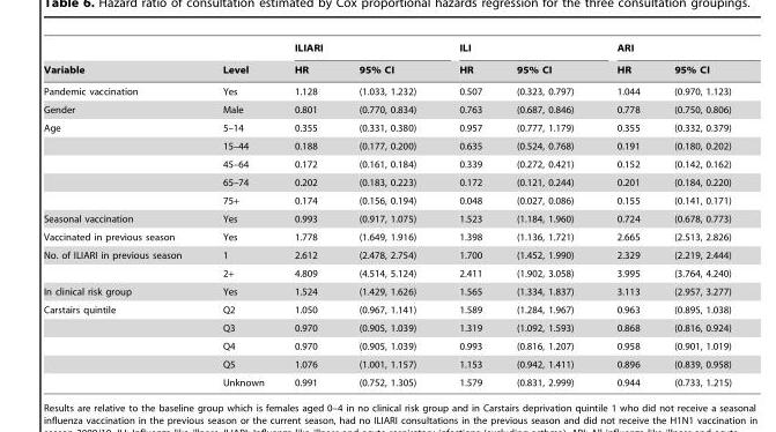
<table><thead><tr><td rowspan="2">Variable</td><td rowspan="2">Level</td><td colspan="2">ILIARI</td><td colspan="2">ILI</td><td colspan="2">ARI</td></tr><tr><td>HR</td><td>95% CI</td><td>HR</td><td>95% CI</td><td>HR</td><td>95% CI</td></tr></thead><tbody><tr><td>Pandemic vaccination</td><td>Yes</td><td>1.128</td><td>(1.033, 1.232)</td><td>0.507</td><td>(0.323, 0.797)</td><td>1.044</td><td>(0.970, 1.123)</td></tr><tr><td>Gender</td><td>Male</td><td>0.801</td><td>(0.770, 0.834)</td><td>0.763</td><td>(0.687, 0.846)</td><td>0.778</td><td>(0.750, 0.806)</td></tr><tr><td rowspan="5">Age</td><td>5–14</td><td>0.355</td><td>(0.331, 0.380)</td><td>0.957</td><td>(0.777, 1.179)</td><td>0.355</td><td>(0.332, 0.379)</td></tr><tr><td>15–44</td><td>0.188</td><td>(0.177, 0.200)</td><td>0.635</td><td>(0.524, 0.768)</td><td>0.191</td><td>(0.180, 0.202)</td></tr><tr><td>45–64</td><td>0.172</td><td>(0.161, 0.184)</td><td>0.339</td><td>(0.272, 0.421)</td><td>0.152</td><td>(0.142, 0.162)</td></tr><tr><td>65–74</td><td>0.202</td><td>(0.183, 0.223)</td><td>0.172</td><td>(0.121, 0.244)</td><td>0.201</td><td>(0.184, 0.220)</td></tr><tr><td>75+</td><td>0.174</td><td>(0.156, 0.194)</td><td>0.048</td><td>(0.027, 0.086)</td><td>0.155</td><td>(0.141, 0.171)</td></tr><tr><td>Seasonal vaccination</td><td>Yes</td><td>0.993</td><td>(0.917, 1.075)</td><td>1.523</td><td>(1.184, 1.960)</td><td>0.724</td><td>(0.678, 0.773)</td></tr><tr><td>Vaccinated in previous season</td><td>Yes</td><td>1.778</td><td>(1.649, 1.916)</td><td>1.398</td><td>(1.136, 1.721)</td><td>2.665</td><td>(2.513, 2.826)</td></tr><tr><td rowspan="2">No. of ILIARI in previous season</td><td>1</td><td>2.612</td><td>(2.478, 2.754)</td><td>1.700</td><td>(1.452, 1.990)</td><td>2.329</td><td>(2.219, 2.444)</td></tr><tr><td>2+</td><td>4.809</td><td>(4.514, 5.124)</td><td>2.411</td><td>(1.902, 3.058)</td><td>3.995</td><td>(3.764, 4.240)</td></tr><tr><td>In clinical risk group</td><td>Yes</td><td>1.524</td><td>(1.429, 1.626)</td><td>1.565</td><td>(1.334, 1.837)</td><td>3.113</td><td>(2.957, 3.277)</td></tr><tr><td rowspan="5">Carstairs quintile</td><td>Q2</td><td>1.050</td><td>(0.967, 1.141)</td><td>1.589</td><td>(1.284, 1.967)</td><td>0.963</td><td>(0.895, 1.038)</td></tr><tr><td>Q3</td><td>0.970</td><td>(0.905, 1.039)</td><td>1.319</td><td>(1.092, 1.593)</td><td>0.868</td><td>(0.816, 0.924)</td></tr><tr><td>Q4</td><td>0.970</td><td>(0.905, 1.039)</td><td>0.993</td><td>(0.816, 1.207)</td><td>0.958</td><td>(0.901, 1.019)</td></tr><tr><td>Q5</td><td>1.076</td><td>(1.001, 1.157)</td><td>1.153</td><td>(0.942, 1.411)</td><td>0.896</td><td>(0.839, 0.958)</td></tr><tr><td>Unknown</td><td>0.991</td><td>(0.752, 1.305)</td><td>1.579</td><td>(0.831, 2.999)</td><td>0.944</td><td>(0.733, 1.215)</td></tr></tbody></table>